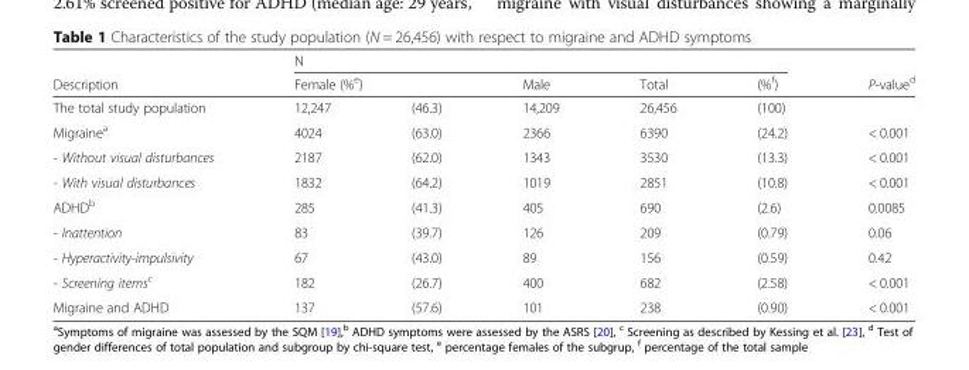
<table><thead><tr><td rowspan="3">Description The total study population</td><td colspan="5">N</td><td rowspan="3">P-value<sup>d</sup></td></tr><tr><td colspan="2">Female (%<sup>e</sup>)</td><td rowspan="2">Male 14,209</td><td rowspan="2">Total 26,456</td><td rowspan="2">(%<sup>f</sup>) (100)</td></tr><tr><td>12,247</td><td>(46.3)</td></tr></thead><tbody><tr><td>Migraine<sup>a</sup></td><td>4024</td><td>(63.0)</td><td>2366</td><td>6390</td><td>(24.2)</td><td>&lt; 0.001</td></tr><tr><td>- Without visual disturbances</td><td>2187</td><td>(62.0)</td><td>1343</td><td>3530</td><td>(13.3)</td><td>&lt; 0.001</td></tr><tr><td>- With visual disturbances</td><td>1832</td><td>(64.2)</td><td>1019</td><td>2851</td><td>(10.8)</td><td>&lt; 0.001</td></tr><tr><td>ADHD<sup>b</sup></td><td>285</td><td>(41.3)</td><td>405</td><td>690</td><td>(2.6)</td><td>0.0085</td></tr><tr><td>- Inattention</td><td>83</td><td>(39.7)</td><td>126</td><td>209</td><td>(0.79)</td><td>0.06</td></tr><tr><td>- Hyperactivity-impulsivity</td><td>67</td><td>(43.0)</td><td>89</td><td>156</td><td>(0.59)</td><td>0.42</td></tr><tr><td>- Screening items<sup>c</sup></td><td>182</td><td>(26.7)</td><td>400</td><td>682</td><td>(2.58)</td><td>&lt; 0.001</td></tr><tr><td>Migraine and ADHD</td><td>137</td><td>(57.6)</td><td>101</td><td>238</td><td>(0.90)</td><td>&lt; 0.001</td></tr></tbody></table>